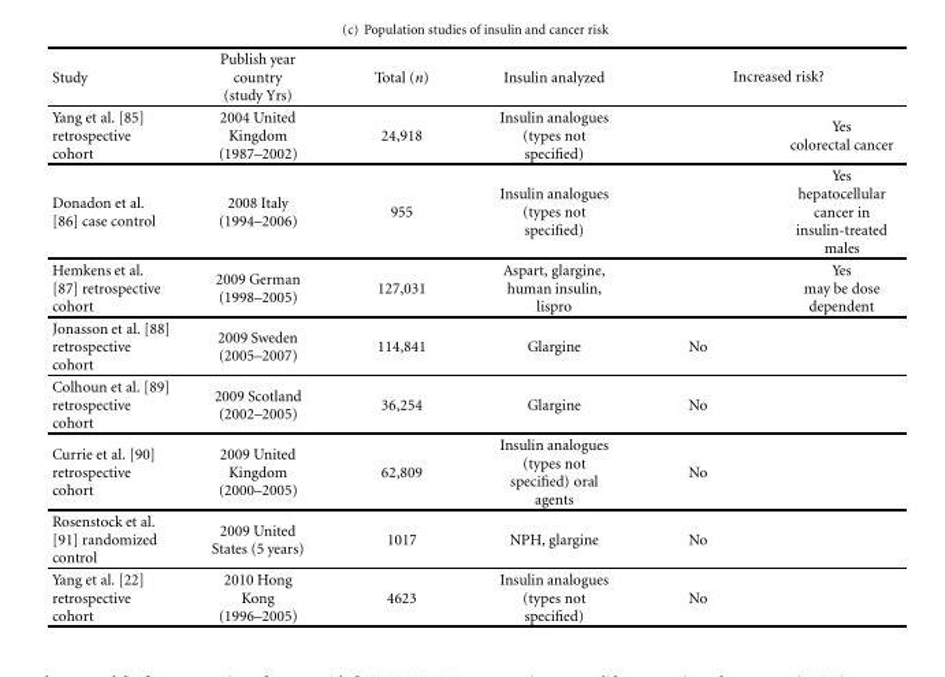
<table><thead><tr><td rowspan="2">Study Yang et al. [85] retrospective cohort</td><td rowspan="2">Publish year country (study Yrs) 2004 United Kingdom (1987–2002)</td><td rowspan="2">Total (n) 24,918</td><td rowspan="2">Insulin analyzed Insulin analogues (types not specified)</td><td colspan="2">Increased risk?</td></tr><tr><td></td><td>Yes colorectal cancer</td></tr></thead><tbody><tr><td>Donadon et al. [86] case control</td><td>2008 Italy (1994–2006)</td><td>955</td><td>Insulin analogues (types not specified)</td><td></td><td>Yes hepatocellular cancer in insulin-treated males</td></tr><tr><td>Hemkens et al. [87] retrospective cohort</td><td>2009 German (1998–2005)</td><td>127,031</td><td>Aspart, glargine, human insulin, lispro</td><td></td><td>Yes may be dose dependent</td></tr><tr><td>Jonasson et al. [88] retrospective cohort</td><td>2009 Sweden (2005–2007)</td><td>114,841</td><td>Glargine</td><td>No</td><td></td></tr><tr><td>Colhoun et al. [89] retrospective cohort</td><td>2009 Scotland (2002–2005)</td><td>36,254</td><td>Glargine</td><td>No</td><td></td></tr><tr><td>Currie et al. [90] retrospective cohort</td><td>2009 United Kingdom (2000–2005)</td><td>62,809</td><td>Insulin analogues (types not specified) oral agents</td><td>No</td><td></td></tr><tr><td>Rosenstock et al. [91] randomized control</td><td>2009 United States (5 years)</td><td>1017</td><td>NPH, glargine</td><td>No</td><td></td></tr><tr><td>Yang et al. [22] retrospective cohort</td><td>2010 Hong Kong (1996–2005)</td><td>4623</td><td>Insulin analogues (types not specified)</td><td>No</td><td></td></tr></tbody></table>